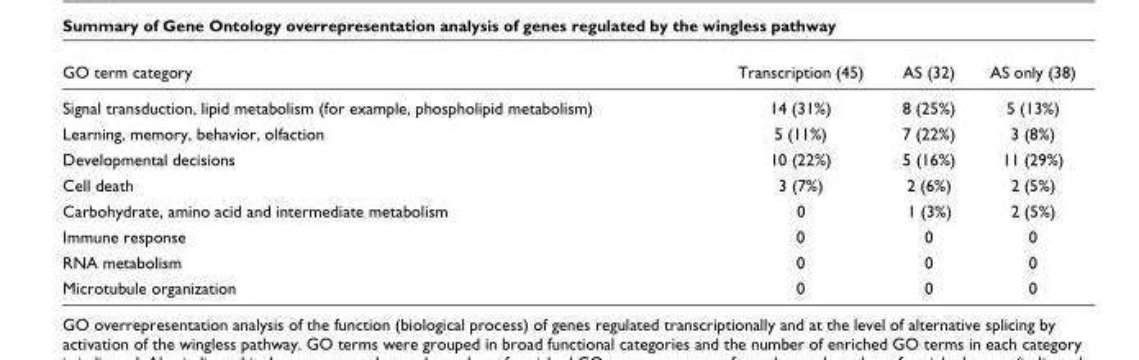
<table><thead><tr><td>GO term category</td><td>Transcription (45)</td><td>AS (32)</td><td>AS only (38)</td></tr></thead><tbody><tr><td>Signal transduction, lipid metabolism (for example, phospholipid metabolism)</td><td>14 (31%)</td><td>8 (25%)</td><td>5 (13%)</td></tr><tr><td>Learning, memory, behavior, olfaction</td><td>5 (11%)</td><td>7 (22%)</td><td>3 (8%)</td></tr><tr><td>Developmental decisions</td><td>10 (22%)</td><td>5 (16%)</td><td>11 (29%)</td></tr><tr><td>Cell death</td><td>3 (7%)</td><td>2 (6%)</td><td>2 (5%)</td></tr><tr><td>Carbohydrate, amino acid and intermediate metabolism</td><td>0</td><td>1 (3%)</td><td>2 (5%)</td></tr><tr><td>Immune response</td><td>0</td><td>0</td><td>0</td></tr><tr><td>RNA metabolism</td><td>0</td><td>0</td><td>0</td></tr><tr><td>Microtubule organization</td><td>0</td><td>0</td><td>0</td></tr></tbody></table>